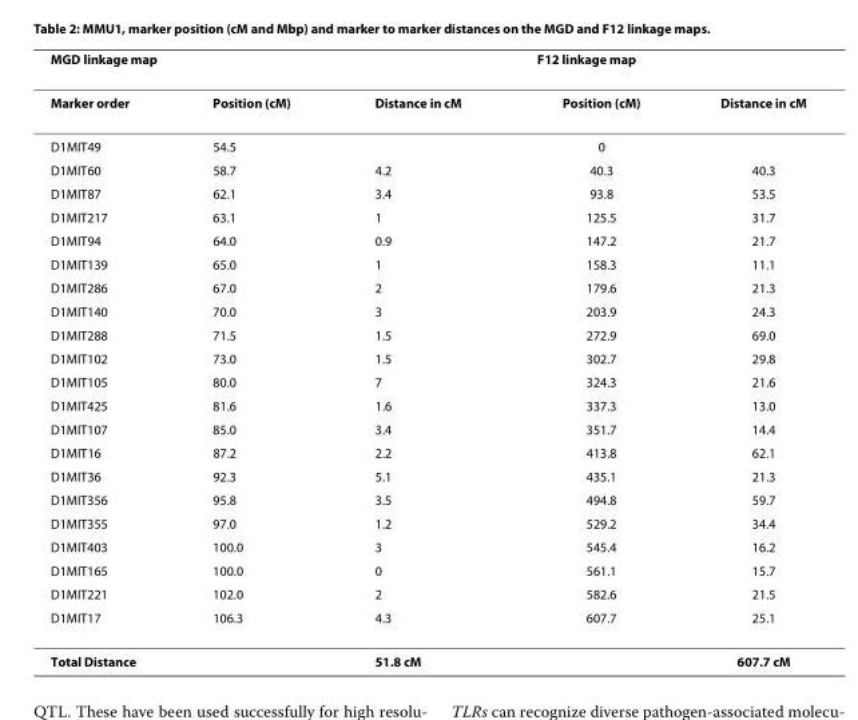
<table><thead><tr><td colspan="3">MGD linkage map</td><td colspan="2">F12 linkage map</td></tr><tr><td>Marker order</td><td>Position (cM)</td><td>Distance in cM</td><td>Position (cM)</td><td>Distance in cM</td></tr></thead><tbody><tr><td>D1MIT49</td><td>54.5</td><td></td><td>0</td><td></td></tr><tr><td>D1MIT60</td><td>58.7</td><td>4.2</td><td>40.3</td><td>40.3</td></tr><tr><td>D1MIT87</td><td>62.1</td><td>3.4</td><td>93.8</td><td>53.5</td></tr><tr><td>D1MIT217</td><td>63.1</td><td>1</td><td>125.5</td><td>31.7</td></tr><tr><td>D1MIT94</td><td>64.0</td><td>0.9</td><td>147.2</td><td>21.7</td></tr><tr><td>D1MIT139</td><td>65.0</td><td>1</td><td>158.3</td><td>11.1</td></tr><tr><td>D1MIT286</td><td>67.0</td><td>2</td><td>179.6</td><td>21.3</td></tr><tr><td>D1MIT140</td><td>70.0</td><td>3</td><td>203.9</td><td>24.3</td></tr><tr><td>D1MIT288</td><td>71.5</td><td>1.5</td><td>272.9</td><td>69.0</td></tr><tr><td>D1MIT102</td><td>73.0</td><td>1.5</td><td>302.7</td><td>29.8</td></tr><tr><td>D1MIT105</td><td>80.0</td><td>7</td><td>324.3</td><td>21.6</td></tr><tr><td>D1MIT425</td><td>81.6</td><td>1.6</td><td>337.3</td><td>13.0</td></tr><tr><td>D1MIT107</td><td>85.0</td><td>3.4</td><td>351.7</td><td>14.4</td></tr><tr><td>D1MIT16</td><td>87.2</td><td>2.2</td><td>413.8</td><td>62.1</td></tr><tr><td>D1MIT36</td><td>92.3</td><td>5.1</td><td>435.1</td><td>21.3</td></tr><tr><td>D1MIT356</td><td>95.8</td><td>3.5</td><td>494.8</td><td>59.7</td></tr><tr><td>D1MIT355</td><td>97.0</td><td>1.2</td><td>529.2</td><td>34.4</td></tr><tr><td>D1MIT403</td><td>100.0</td><td>3</td><td>545.4</td><td>16.2</td></tr><tr><td>D1MIT165</td><td>100.0</td><td>0</td><td>561.1</td><td>15.7</td></tr><tr><td>D1MIT221</td><td>102.0</td><td>2</td><td>582.6</td><td>21.5</td></tr><tr><td>D1MIT17</td><td>106.3</td><td>4.3</td><td>607.7</td><td>25.1</td></tr><tr><td>Total Distance</td><td></td><td>51.8 cM</td><td></td><td>607.7 cM</td></tr></tbody></table>